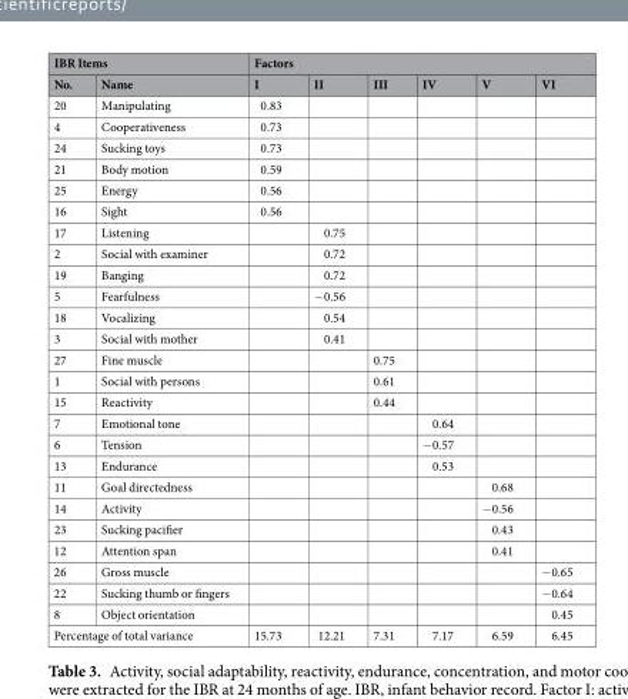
<table><thead><tr><td colspan="2">IBR Items</td><td colspan="6">Factors</td></tr><tr><td>No.</td><td>Name</td><td>I</td><td>II</td><td>III</td><td>IV</td><td>V</td><td>VI</td></tr></thead><tbody><tr><td>20</td><td>Manipulating</td><td>0.83</td><td></td><td></td><td></td><td></td><td></td></tr><tr><td>4</td><td>Cooperativeness</td><td>0.73</td><td></td><td></td><td></td><td></td><td></td></tr><tr><td>24</td><td>Sucking toys</td><td>0.73</td><td></td><td></td><td></td><td></td><td></td></tr><tr><td>21</td><td>Body motion</td><td>0.59</td><td></td><td></td><td></td><td></td><td></td></tr><tr><td>25</td><td>Energy</td><td>0.56</td><td></td><td></td><td></td><td></td><td></td></tr><tr><td>16</td><td>Sight</td><td>0.56</td><td></td><td></td><td></td><td></td><td></td></tr><tr><td>17</td><td>Listening</td><td></td><td>0.75</td><td></td><td></td><td></td><td></td></tr><tr><td>2</td><td>Social with examiner</td><td></td><td>0.72</td><td></td><td></td><td></td><td></td></tr><tr><td>19</td><td>Banging</td><td></td><td>0.72</td><td></td><td></td><td></td><td></td></tr><tr><td>5</td><td>Fearfulness</td><td></td><td>−0.56</td><td></td><td></td><td></td><td></td></tr><tr><td>18</td><td>Vocalizing</td><td></td><td>0.54</td><td></td><td></td><td></td><td></td></tr><tr><td>3</td><td>Social with mother</td><td></td><td>0.41</td><td></td><td></td><td></td><td></td></tr><tr><td>27</td><td>Fine muscle</td><td></td><td></td><td>0.75</td><td></td><td></td><td></td></tr><tr><td>1</td><td>Social with persons</td><td></td><td></td><td>0.61</td><td></td><td></td><td></td></tr><tr><td>15</td><td>Reactivity</td><td></td><td></td><td>0.44</td><td></td><td></td><td></td></tr><tr><td>7</td><td>Emotional tone</td><td></td><td></td><td></td><td>0.64</td><td></td><td></td></tr><tr><td>6</td><td>Tension</td><td></td><td></td><td></td><td>−0.57</td><td></td><td></td></tr><tr><td>13</td><td>Endurance</td><td></td><td></td><td></td><td>0.53</td><td></td><td></td></tr><tr><td>11</td><td>Goal directedness</td><td></td><td></td><td></td><td></td><td>0.68</td><td></td></tr><tr><td>14</td><td>Activity</td><td></td><td></td><td></td><td></td><td>−0.56</td><td></td></tr><tr><td>23</td><td>Sucking pacifier</td><td></td><td></td><td></td><td></td><td>0.43</td><td></td></tr><tr><td>12</td><td>Attention span</td><td></td><td></td><td></td><td></td><td>0.41</td><td></td></tr><tr><td>26</td><td>Gross muscle</td><td></td><td></td><td></td><td></td><td></td><td>−0.65</td></tr><tr><td>22</td><td>Sucking thumb or fingers</td><td></td><td></td><td></td><td></td><td></td><td>−0.64</td></tr><tr><td>8</td><td>Object orientation</td><td></td><td></td><td></td><td></td><td></td><td>0.45</td></tr><tr><td colspan="2">Percentage of total variance</td><td>15.73</td><td>12.21</td><td>7.31</td><td>7.17</td><td>6.59</td><td>6.45</td></tr></tbody></table>